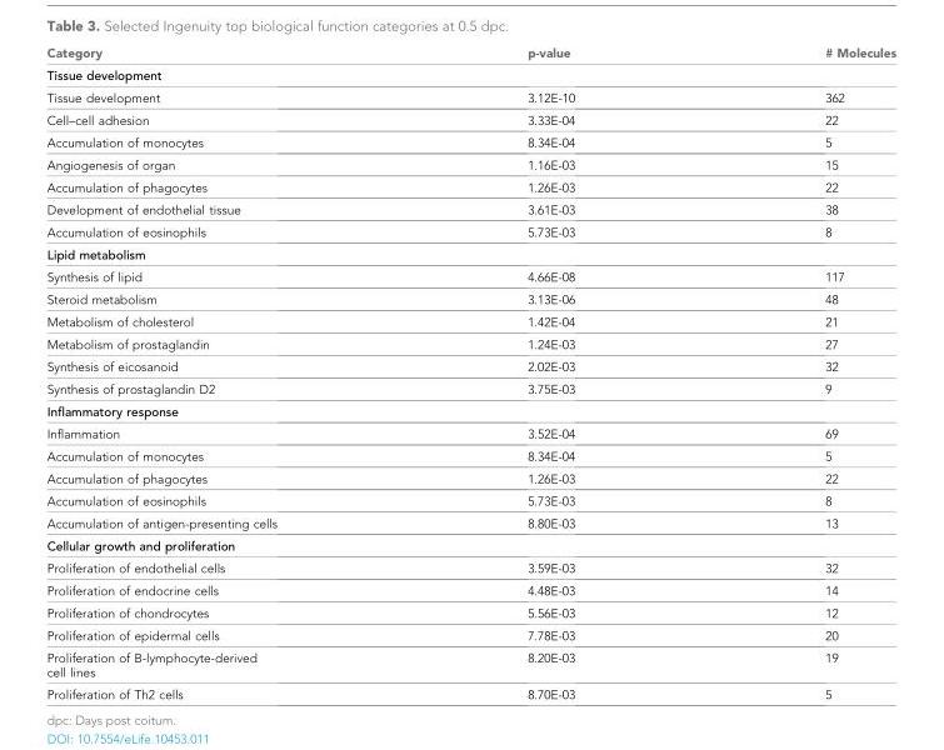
<table><thead><tr><td>Category</td><td>p-value</td><td># Molecules</td></tr></thead><tbody><tr><td colspan="3">Tissue development</td></tr><tr><td>Tissue development</td><td>3.12E-10</td><td>362</td></tr><tr><td>Cell–cell adhesion</td><td>3.33E-04</td><td>22</td></tr><tr><td>Accumulation of monocytes</td><td>8.34E-04</td><td>5</td></tr><tr><td>Angiogenesis of organ</td><td>1.16E-03</td><td>15</td></tr><tr><td>Accumulation of phagocytes</td><td>1.26E-03</td><td>22</td></tr><tr><td>Development of endothelial tissue</td><td>3.61E-03</td><td>38</td></tr><tr><td>Accumulation of eosinophils</td><td>5.73E-03</td><td>8</td></tr><tr><td colspan="3">Lipid metabolism</td></tr><tr><td>Synthesis of lipid</td><td>4.66E-08</td><td>117</td></tr><tr><td>Steroid metabolism</td><td>3.13E-06</td><td>48</td></tr><tr><td>Metabolism of cholesterol</td><td>1.42E-04</td><td>21</td></tr><tr><td>Metabolism of prostaglandin</td><td>1.24E-03</td><td>27</td></tr><tr><td>Synthesis of eicosanoid</td><td>2.02E-03</td><td>32</td></tr><tr><td>Synthesis of prostaglandin D2</td><td>3.75E-03</td><td>9</td></tr><tr><td colspan="3">Inflammatory response</td></tr><tr><td>Inflammation</td><td>3.52E-04</td><td>69</td></tr><tr><td>Accumulation of monocytes</td><td>8.34E-04</td><td>5</td></tr><tr><td>Accumulation of phagocytes</td><td>1.26E-03</td><td>22</td></tr><tr><td>Accumulation of eosinophils</td><td>5.73E-03</td><td>8</td></tr><tr><td>Accumulation of antigen-presenting cells</td><td>8.80E-03</td><td>13</td></tr><tr><td colspan="3">Cellular growth and proliferation</td></tr><tr><td>Proliferation of endothelial cells</td><td>3.59E-03</td><td>32</td></tr><tr><td>Proliferation of endocrine cells</td><td>4.48E-03</td><td>14</td></tr><tr><td>Proliferation of chondrocytes</td><td>5.56E-03</td><td>12</td></tr><tr><td>Proliferation of epidermal cells</td><td>7.78E-03</td><td>20</td></tr><tr><td>Proliferation of B-lymphocyte-derived cell lines</td><td>8.20E-03</td><td>19</td></tr><tr><td>Proliferation of Th2 cells</td><td>8.70E-03</td><td>5</td></tr></tbody></table>